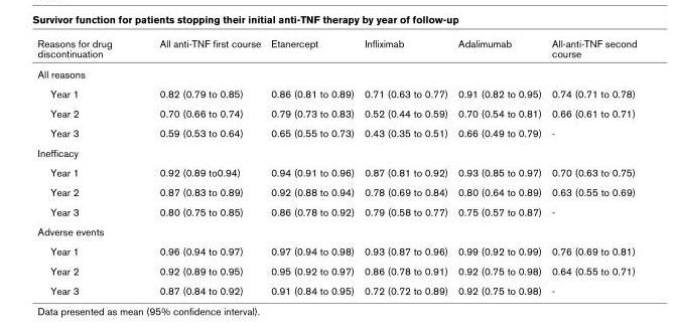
<table><thead><tr><td>Reasons for drug discontinuation</td><td>All anti-TNF first course</td><td>Etanercept</td><td>Infliximab</td><td>Adalimumab</td><td>All-anti-TNF second course</td></tr></thead><tbody><tr><td colspan="6">All reasons</td></tr><tr><td>Year 1</td><td>0.82 (0.79 to 0.85)</td><td>0.86 (0.81 to 0.89)</td><td>0.71 (0.63 to 0.77)</td><td>0.91 (0.82 to 0.95)</td><td>0.74 (0.71 to 0.78)</td></tr><tr><td>Year 2</td><td>0.70 (0.66 to 0.74)</td><td>0.79 (0.73 to 0.83)</td><td>0.52 (0.44 to 0.59)</td><td>0.70 (0.54 to 0.81)</td><td>0.66 (0.61 to 0.71)</td></tr><tr><td>Year 3</td><td>0.59 (0.53 to 0.64)</td><td>0.65 (0.55 to 0.73)</td><td>0.43 (0.35 to 0.51)</td><td>0.66 (0.49 to 0.79)</td><td>-</td></tr><tr><td colspan="6">Inefficacy</td></tr><tr><td>Year 1</td><td>0.92 (0.89 to0.94)</td><td>0.94 (0.91 to 0.96)</td><td>0.87 (0.81 to 0.92)</td><td>0.93 (0.85 to 0.97)</td><td>0.70 (0.63 to 0.75)</td></tr><tr><td>Year 2</td><td>0.87 (0.83 to 0.89)</td><td>0.92 (0.88 to 0.94)</td><td>0.78 (0.69 to 0.84)</td><td>0.80 (0.64 to 0.89)</td><td>0.63 (0.55 to 0.69)</td></tr><tr><td>Year 3</td><td>0.80 (0.75 to 0.85)</td><td>0.86 (0.78 to 0.92)</td><td>0.79 (0.58 to 0.77)</td><td>0.75 (0.57 to 0.87)</td><td>-</td></tr><tr><td colspan="6">Adverse events</td></tr><tr><td>Year 1</td><td>0.96 (0.94 to 0.97)</td><td>0.97 (0.94 to 0.98)</td><td>0.93 (0.87 to 0.96)</td><td>0.99 (0.92 to 0.99)</td><td>0.76 (0.69 to 0.81)</td></tr><tr><td>Year 2</td><td>0.92 (0.89 to 0.95)</td><td>0.95 (0.92 to 0.97)</td><td>0.86 (0.78 to 0.91)</td><td>0.92 (0.75 to 0.98)</td><td>0.64 (0.55 to 0.71)</td></tr><tr><td>Year 3</td><td>0.87 (0.84 to 0.92)</td><td>0.91 (0.84 to 0.95)</td><td>0.72 (0.72 to 0.89)</td><td>0.92 (0.75 to 0.98)</td><td>-</td></tr></tbody></table>